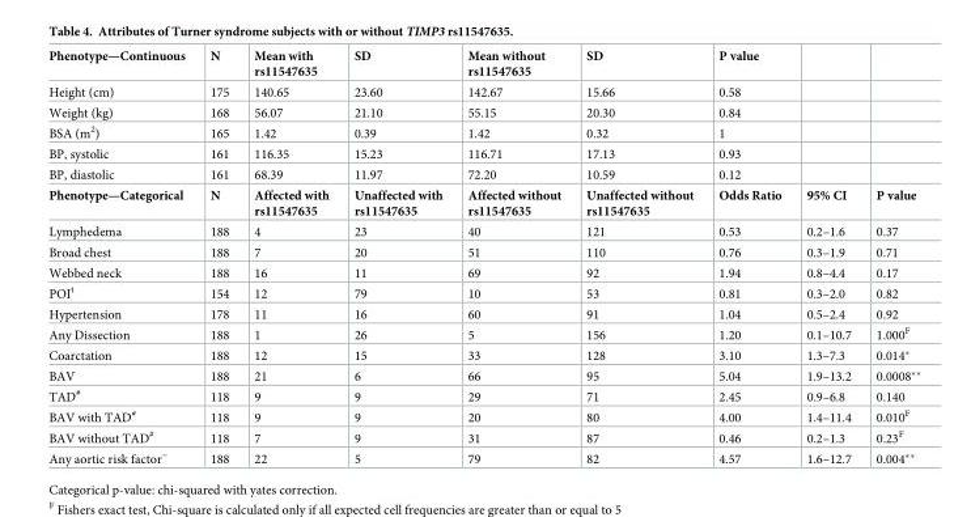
<table><tbody><tr><td>Phenotype—Continuous</td><td>N</td><td>Mean with rs11547635</td><td>SD</td><td>Mean without rs11547635</td><td>SD</td><td>P value</td><td></td><td></td></tr><tr><td>Height (cm)</td><td>175</td><td>140.65</td><td>23.60</td><td>142.67</td><td>15.66</td><td>0.58</td><td></td><td></td></tr><tr><td>Weight (kg)</td><td>168</td><td>56.07</td><td>21.10</td><td>55.15</td><td>20.30</td><td>0.84</td><td></td><td></td></tr><tr><td>BSA (m<sup>2</sup>)</td><td>165</td><td>1.42</td><td>0.39</td><td>1.42</td><td>0.32</td><td>1</td><td></td><td></td></tr><tr><td>BP, systolic</td><td>161</td><td>116.35</td><td>15.23</td><td>116.71</td><td>17.13</td><td>0.93</td><td></td><td></td></tr><tr><td>BP, diastolic</td><td>161</td><td>68.39</td><td>11.97</td><td>72.20</td><td>10.59</td><td>0.12</td><td></td><td></td></tr><tr><td>Phenotype—Categorical</td><td>N</td><td>Affected with rs11547635</td><td>Unaffected with rs11547635</td><td>Affected without rs11547635</td><td>Unaffected without rs11547635</td><td>Odds Ratio</td><td>95% CI</td><td>P value</td></tr><tr><td>Lymphedema</td><td>188</td><td>4</td><td>23</td><td>40</td><td>121</td><td>0.53</td><td>0.2–1.6</td><td>0.37</td></tr><tr><td>Broad chest</td><td>188</td><td>7</td><td>20</td><td>51</td><td>110</td><td>0.76</td><td>0.3–1.9</td><td>0.71</td></tr><tr><td>Webbed neck</td><td>188</td><td>16</td><td>11</td><td>69</td><td>92</td><td>1.94</td><td>0.8–4.4</td><td>0.17</td></tr><tr><td>POI<sup>t</sup></td><td>154</td><td>12</td><td>79</td><td>10</td><td>53</td><td>0.81</td><td>0.3–2.0</td><td>0.82</td></tr><tr><td>Hypertension</td><td>178</td><td>11</td><td>16</td><td>60</td><td>91</td><td>1.04</td><td>0.5–2.4</td><td>0.92</td></tr><tr><td>Any Dissection</td><td>188</td><td>1</td><td>26</td><td>5</td><td>156</td><td>1.20</td><td>0.1–10.7</td><td>1.000<sup>F</sup></td></tr><tr><td>Coarctation</td><td>188</td><td>12</td><td>15</td><td>33</td><td>128</td><td>3.10</td><td>1.3–7.3</td><td>0.014*</td></tr><tr><td>BAV</td><td>188</td><td>21</td><td>6</td><td>66</td><td>95</td><td>5.04</td><td>1.9–13.2</td><td>0.0008**</td></tr><tr><td>TAD<sup>#</sup></td><td>118</td><td>9</td><td>9</td><td>29</td><td>71</td><td>2.45</td><td>0.9–6.8</td><td>0.140</td></tr><tr><td>BAV with TAD<sup>#</sup></td><td>118</td><td>9</td><td>9</td><td>20</td><td>80</td><td>4.00</td><td>1.4–11.4</td><td>0.010<sup>F</sup></td></tr><tr><td>BAV without TAD<sup>#</sup></td><td>118</td><td>7</td><td>9</td><td>31</td><td>87</td><td>0.46</td><td>0.2–1.3</td><td>0.23<sup>F</sup></td></tr><tr><td>Any aortic risk factor<sup>~</sup></td><td>188</td><td>22</td><td>5</td><td>79</td><td>82</td><td>4.57</td><td>1.6–12.7</td><td>0.004**</td></tr></tbody></table>